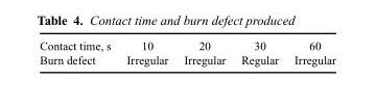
<table><thead><tr><td rowspan="2">Contact time, s Burn defect</td><td rowspan="2">10 Irregular</td><td rowspan="2">20 Irregular</td><td rowspan="2">30 Regular</td><td rowspan="2">60 Irregular</td></tr><tr></tr></thead><tbody></tbody></table>